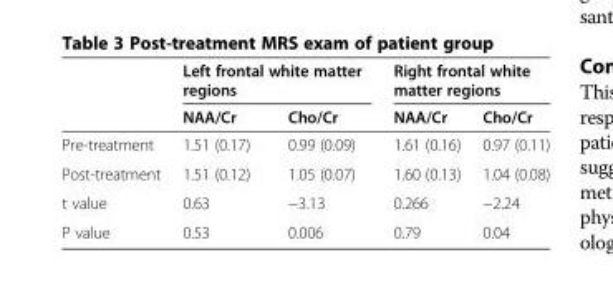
<table><thead><tr><td rowspan="2"></td><td colspan="2">Left frontal white matter regions</td><td colspan="2">Right frontal white matter regions</td></tr><tr><td>NAA/Cr</td><td>Cho/Cr</td><td>NAA/Cr</td><td>Cho/Cr</td></tr></thead><tbody><tr><td>Pre-treatment</td><td>1.51 (0.17)</td><td>0.99 (0.09)</td><td>1.61 (0.16)</td><td>0.97 (0.11)</td></tr><tr><td>Post-treatment</td><td>1.51 (0.12)</td><td>1.05 (0.07)</td><td>1.60 (0.13)</td><td>1.04 (0.08)</td></tr><tr><td>t value</td><td>0.63</td><td>−3.13</td><td>0.266</td><td>−2.24</td></tr><tr><td>P value</td><td>0.53</td><td>0.006</td><td>0.79</td><td>0.04</td></tr></tbody></table>